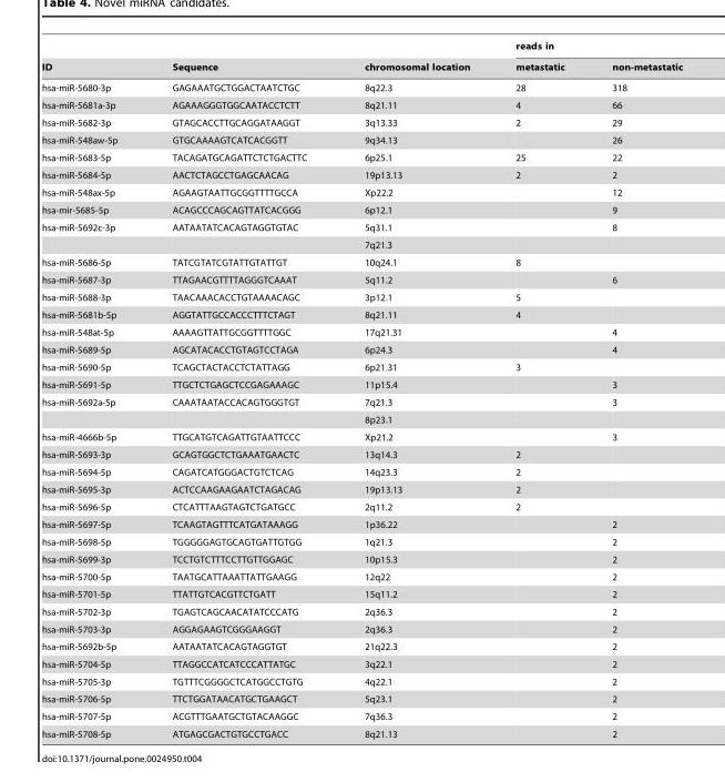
<table><thead><tr><td rowspan="2">ID</td><td rowspan="2">Sequence</td><td rowspan="2">chromosomal location</td><td colspan="2">reads in</td></tr><tr><td>metastatic</td><td>non-metastatic</td></tr></thead><tbody><tr><td>hsa-miR-5680-3p</td><td>GAGAAATGCTGGACTAATCTGC</td><td>8q22.3</td><td>28</td><td>318</td></tr><tr><td>hsa-miR-5681a-3p</td><td>AGAAAGGGTGGCAATACCTCTT</td><td>8q21.11</td><td>4</td><td>66</td></tr><tr><td>hsa-miR-5682-3p</td><td>GTAGCACCTTGCAGGATAAGGT</td><td>3q13.33</td><td>2</td><td>29</td></tr><tr><td>hsa-miR-548aw-5p</td><td>GTGCAAAAGTCATCACGGTT</td><td>9q34.13</td><td></td><td>26</td></tr><tr><td>hsa-miR-5683-5p</td><td>TACAGATGCAGATTCTCTGACTTC</td><td>6p25.1</td><td>25</td><td>22</td></tr><tr><td>hsa-miR-5684-5p</td><td>AACTCTAGCCTGAGCAACAG</td><td>19p13.13</td><td>2</td><td>2</td></tr><tr><td>hsa-miR-548ax-5p</td><td>AGAAGTAATTGCGGTTTTGCCA</td><td>Xp22.2</td><td></td><td>12</td></tr><tr><td>hsa-mir-5685-5p</td><td>ACAGCCCAGCAGTTATCACGGG</td><td>6p12.1</td><td></td><td>9</td></tr><tr><td rowspan="2">hsa-miR-5692c-3p</td><td>AATAATATCACAGTAGGTGTAC</td><td>5q31.1</td><td></td><td>8</td></tr><tr><td></td><td>7q21.3</td><td></td><td></td></tr><tr><td>hsa-miR-5686-5p</td><td>TATCGTATCGTATTGTATTGT</td><td>10q24.1</td><td>8</td><td></td></tr><tr><td>hsa-miR-5687-3p</td><td>TTAGAACGTTTTAGGGTCAAAT</td><td>5q11.2</td><td></td><td>6</td></tr><tr><td>hsa-miR-5688-3p</td><td>TAACAAACACCTGTAAAACAGC</td><td>3p12.1</td><td>5</td><td></td></tr><tr><td>hsa-miR-5681b-5p</td><td>AGGTATTGCCACCCTTTCTAGT</td><td>8q21.11</td><td>4</td><td></td></tr><tr><td>hsa-miR-548at-5p</td><td>AAAAGTTATTGCGGTTTTGGC</td><td>17q21.31</td><td></td><td>4</td></tr><tr><td>hsa-miR-5689-5p</td><td>AGCATACACCTGTAGTCCTAGA</td><td>6p24.3</td><td></td><td>4</td></tr><tr><td>hsa-miR-5690-5p</td><td>TCAGCTACTACCTCTATTAGG</td><td>6p21.31</td><td>3</td><td></td></tr><tr><td>hsa-miR-5691-5p</td><td>TTGCTCTGAGCTCCGAGAAAGC</td><td>11p15.4</td><td></td><td>3</td></tr><tr><td rowspan="2">hsa-miR-5692a-5p</td><td>CAAATAATACCACAGTGGGTGT</td><td>7q21.3</td><td></td><td>3</td></tr><tr><td></td><td>8p23.1</td><td></td><td></td></tr><tr><td>hsa-miR-4666b-5p</td><td>TTGCATGTCAGATTGTAATTCCC</td><td>Xp21.2</td><td></td><td>3</td></tr><tr><td>hsa-miR-5693-3p</td><td>GCAGTGGCTCTGAAATGAACTC</td><td>13q14.3</td><td>2</td><td></td></tr><tr><td>hsa-miR-5694-5p</td><td>CAGATCATGGGACTGTCTCAG</td><td>14q23.3</td><td>2</td><td></td></tr><tr><td>hsa-miR-5695-3p</td><td>ACTCCAAGAAGAATCTAGACAG</td><td>19p13.13</td><td>2</td><td></td></tr><tr><td>hsa-miR-5696-5p</td><td>CTCATTTAAGTAGTCTGATGCC</td><td>2q11.2</td><td>2</td><td></td></tr><tr><td>hsa-miR-5697-5p</td><td>TCAAGTAGTTTCATGATAAAGG</td><td>1p36.22</td><td></td><td>2</td></tr><tr><td>hsa-miR-5698-5p</td><td>TGGGGGAGTGCAGTGATTGTGG</td><td>1q21.3</td><td></td><td>2</td></tr><tr><td>hsa-miR-5699-3p</td><td>TCCTGTCTTTCCTTGTTGGAGC</td><td>10p15.3</td><td></td><td>2</td></tr><tr><td>hsa-miR-5700-5p</td><td>TAATGCATTAAATTATTGAAGG</td><td>12q22</td><td></td><td>2</td></tr><tr><td>hsa-miR-5701-5p</td><td>TTATTGTCACGTTCTGATT</td><td>15q11.2</td><td></td><td>2</td></tr><tr><td>hsa-miR-5702-3p</td><td>TGAGTCAGCAACATATCCCATG</td><td>2q36.3</td><td></td><td>2</td></tr><tr><td>hsa-miR-5703-3p</td><td>AGGAGAAGTCGGGAAGGT</td><td>2q36.3</td><td></td><td>2</td></tr><tr><td>hsa-miR-5692b-5p</td><td>AATAATATCACAGTAGGTGT</td><td>21q22.3</td><td></td><td>2</td></tr><tr><td>hsa-miR-5704-5p</td><td>TTAGGCCATCATCCCATTATGC</td><td>3q22.1</td><td></td><td>2</td></tr><tr><td>hsa-miR-5705-3p</td><td>TGTTTCGGGGCTCATGGCCTGTG</td><td>4q22.1</td><td></td><td>2</td></tr><tr><td>hsa-miR-5706-5p</td><td>TTCTGGATAACATGCTGAAGCT</td><td>5q23.1</td><td></td><td>2</td></tr><tr><td>hsa-miR-5707-5p</td><td>ACGTTTGAATGCTGTACAAGGC</td><td>7q36.3</td><td></td><td>2</td></tr><tr><td>hsa-miR-5708-5p</td><td>ATGAGCGACTGTGCCTGACC</td><td>8q21.13</td><td></td><td>2</td></tr></tbody></table>